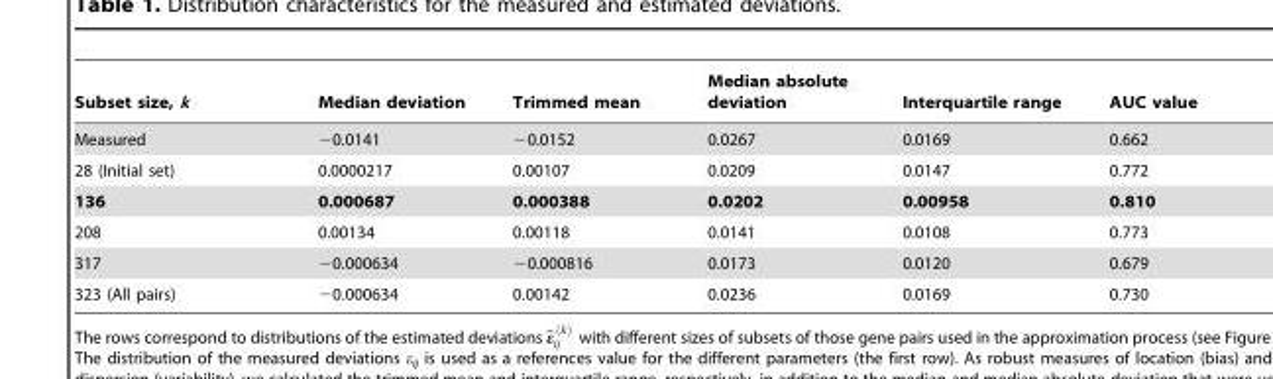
<table><thead><tr><td>Subset size, k</td><td>Median deviation</td><td>Trimmed mean</td><td>Median absolute deviation</td><td>Interquartile range</td><td>AUC value</td></tr></thead><tbody><tr><td>Measured</td><td>−0.0141</td><td>−0.0152</td><td>0.0267</td><td>0.0169</td><td>0.662</td></tr><tr><td>28 (Initial set)</td><td>0.0000217</td><td>0.00107</td><td>0.0209</td><td>0.0147</td><td>0.772</td></tr><tr><td>136</td><td>0.000687</td><td>0.000388</td><td>0.0202</td><td>0.00958</td><td>0.810</td></tr><tr><td>208</td><td>0.00134</td><td>0.00118</td><td>0.0141</td><td>0.0108</td><td>0.773</td></tr><tr><td>317</td><td>−0.000634</td><td>−0.000816</td><td>0.0173</td><td>0.0120</td><td>0.679</td></tr><tr><td>323 (All pairs)</td><td>−0.000634</td><td>0.00142</td><td>0.0236</td><td>0.0169</td><td>0.730</td></tr></tbody></table>